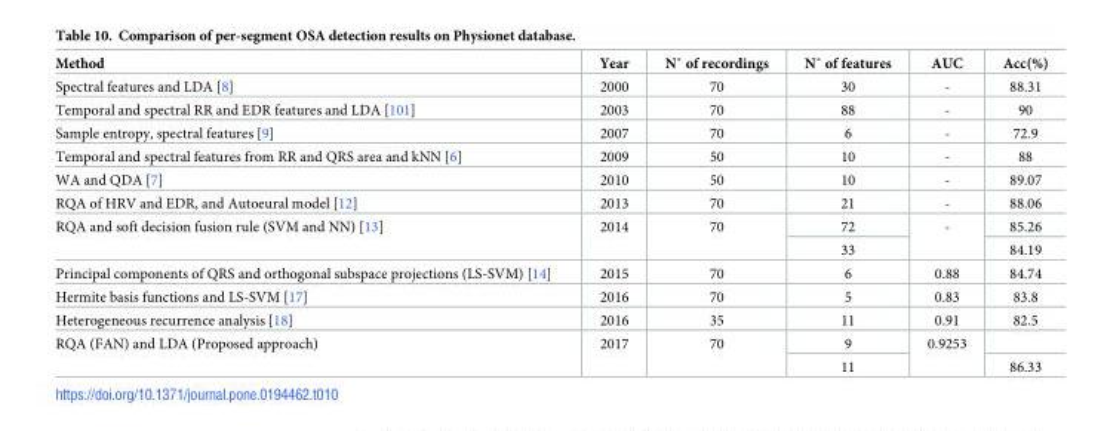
<table><thead><tr><td>Method</td><td>Year</td><td>N˚ of recordings</td><td>N˚ of features</td><td>AUC</td><td>Acc(%)</td></tr></thead><tbody><tr><td>Spectral features and LDA [8]</td><td>2000</td><td>70</td><td>30</td><td>-</td><td>88.31</td></tr><tr><td>Temporal and spectral RR and EDR features and LDA [101]</td><td>2003</td><td>70</td><td>88</td><td>-</td><td>90</td></tr><tr><td>Sample entropy, spectral features [9]</td><td>2007</td><td>70</td><td>6</td><td>-</td><td>72.9</td></tr><tr><td>Temporal and spectral features from RR and QRS area and kNN [6]</td><td>2009</td><td>50</td><td>10</td><td>-</td><td>88</td></tr><tr><td>WA and QDA [7]</td><td>2010</td><td>50</td><td>10</td><td>-</td><td>89.07</td></tr><tr><td>RQA of HRV and EDR, and Autoeural model [12]</td><td>2013</td><td>70</td><td>21</td><td>-</td><td>88.06</td></tr><tr><td rowspan="2">RQA and soft decision fusion rule (SVM and NN) [13]</td><td rowspan="2">2014</td><td rowspan="2">70</td><td>72</td><td rowspan="2">-</td><td>85.26</td></tr><tr><td>33</td><td>84.19</td></tr><tr><td>Principal components of QRS and orthogonal subspace projections (LS-SVM) [14]</td><td>2015</td><td>70</td><td>6</td><td>0.88</td><td>84.74</td></tr><tr><td>Hermite basis functions and LS-SVM [17]</td><td>2016</td><td>70</td><td>5</td><td>0.83</td><td>83.8</td></tr><tr><td>Heterogeneous recurrence analysis [18]</td><td>2016</td><td>35</td><td>11</td><td>0.91</td><td>82.5</td></tr><tr><td rowspan="2">RQA (FAN) and LDA (Proposed approach)</td><td rowspan="2">2017</td><td rowspan="2">70</td><td>9</td><td rowspan="2">0.9253</td><td></td></tr><tr><td>11</td><td>86.33</td></tr></tbody></table>